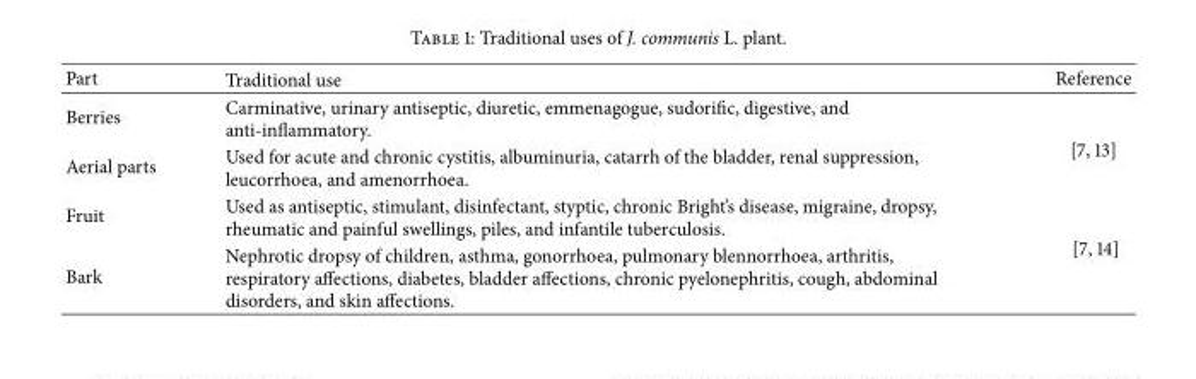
<table><thead><tr><td>Part</td><td>Traditional use</td><td>Reference</td></tr></thead><tbody><tr><td>Berries</td><td>Carminative, urinary antiseptic, diuretic, emmenagogue, sudorific, digestive, and anti-inflammatory.</td><td rowspan="2">[7, 13]</td></tr><tr><td>Aerial parts</td><td>Used for acute and chronic cystitis, albuminuria, catarrh of the bladder, renal suppression, leucorrhoea, and amenorrhoea.</td></tr><tr><td>Fruit</td><td>Used as antiseptic, stimulant, disinfectant, styptic, chronic Bright’s disease, migraine, dropsy, rheumatic and painful swellings, piles, and infantile tuberculosis.</td><td rowspan="2">[7, 14]</td></tr><tr><td>Bark</td><td>Nephrotic dropsy of children, asthma, gonorrhoea, pulmonary blennorrhoea, arthritis, respiratory affections, diabetes, bladder affections, chronic pyelonephritis, cough, abdominal disorders, and skin affections.</td></tr></tbody></table>